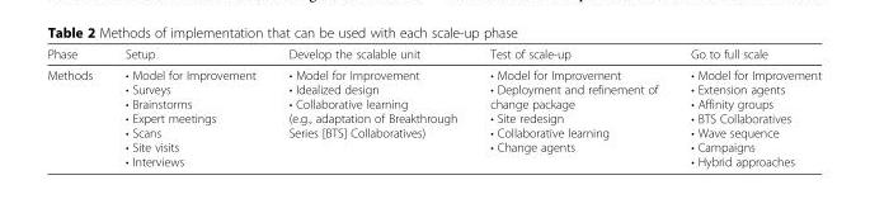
<table><thead><tr><td>Phase</td><td>Setup</td><td>Develop the scalable unit</td><td>Test of scale-up</td><td>Go to full scale</td></tr></thead><tbody><tr><td>Methods</td><td>• Model for Improvement • Surveys • Brainstorms • Expert meetings • Scans • Site visits • Interviews</td><td>• Model for Improvement • Idealized design • Collaborative learning (e.g., adaptation of Breakthrough Series [BTS] Collaboratives)</td><td>• Model for Improvement • Deployment and refinement of change package • Site redesign • Collaborative learning • Change agents</td><td>• Model for Improvement • Extension agents • Affinity groups • BTS Collaboratives • Wave sequence • Campaigns • Hybrid approaches</td></tr></tbody></table>